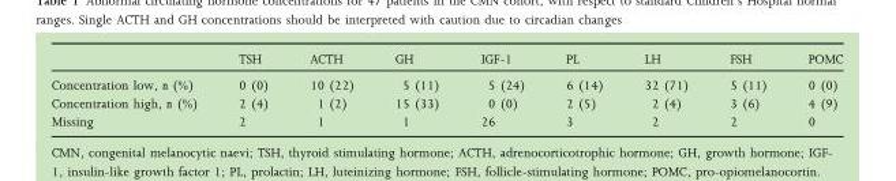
<table><thead><tr><td></td><td>TSH</td><td>ACTH</td><td>GH</td><td>IGF-1</td><td>PL</td><td>LH</td><td>FSH</td><td>POMC</td></tr></thead><tbody><tr><td>Concentration low, n (%)</td><td>0 (0)</td><td>10 (22)</td><td>5 (11)</td><td>5 (24)</td><td>6 (14)</td><td>32 (71)</td><td>5 (11)</td><td>0 (0)</td></tr><tr><td>Concentration high, n (%)</td><td>2 (4)</td><td>1 (2)</td><td>15 (33)</td><td>0 (0)</td><td>2 (5)</td><td>2 (4)</td><td>3 (6)</td><td>4 (9)</td></tr><tr><td>Missing</td><td>2</td><td>1</td><td>1</td><td>26</td><td>3</td><td>2</td><td>2</td><td>0</td></tr></tbody></table>